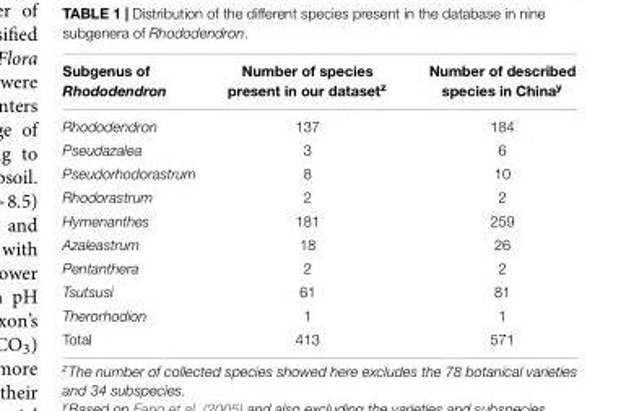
<table><thead><tr><td>Subgenus of Rhododendron</td><td>Number of species present in our dataset<sup>z</sup></td><td>Number of described species in China<sup>y</sup></td></tr></thead><tbody><tr><td>Rhododendron</td><td>137</td><td>184</td></tr><tr><td>Pseudazalea</td><td>3</td><td>6</td></tr><tr><td>Pseudorhodorastrum</td><td>8</td><td>10</td></tr><tr><td>Rhodorastrum</td><td>2</td><td>2</td></tr><tr><td>Hymenanthes</td><td>181</td><td>259</td></tr><tr><td>Azaleastrum</td><td>18</td><td>26</td></tr><tr><td>Pentanthera</td><td>2</td><td>2</td></tr><tr><td>Tsutsusi</td><td>61</td><td>81</td></tr><tr><td>Therorhodion</td><td>1</td><td>1</td></tr><tr><td>Total</td><td>413</td><td>571</td></tr></tbody></table>